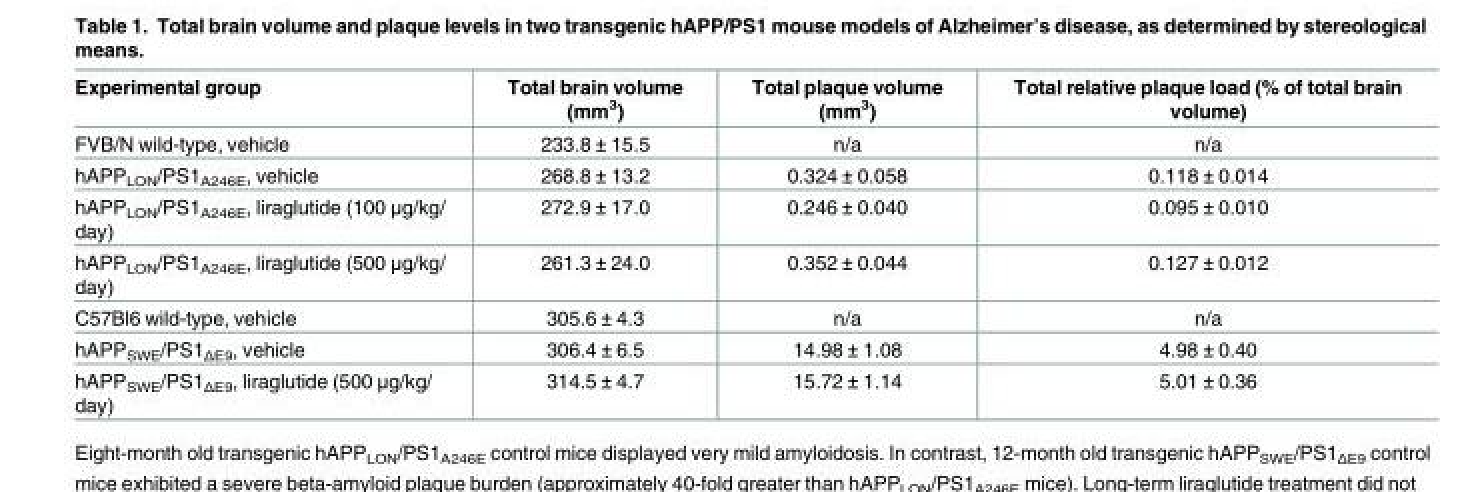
<table><thead><tr><td>Experimental group</td><td>Total brain volume (mm<sup>3</sup>)</td><td>Total plaque volume (mm<sup>3</sup>)</td><td>Total relative plaque load (% of total brain volume)</td></tr></thead><tbody><tr><td>FVB/N wild-type, vehicle</td><td>233.8 ± 15.5</td><td>n/a</td><td>n/a</td></tr><tr><td>hAPP<sub>LON</sub>/PS1<sub>A246E</sub>, vehicle</td><td>268.8 ± 13.2</td><td>0.324 ± 0.058</td><td>0.118 ± 0.014</td></tr><tr><td>hAPP<sub>LON</sub>/PS1<sub>A246E</sub>, liraglutide (100 μg/kg/ day)</td><td>272.9 ± 17.0</td><td>0.246 ± 0.040</td><td>0.095 ± 0.010</td></tr><tr><td>hAPP<sub>LON</sub>/PS1<sub>A246E</sub>, liraglutide (500 μg/kg/ day)</td><td>261.3 ± 24.0</td><td>0.352 ± 0.044</td><td>0.127 ± 0.012</td></tr><tr><td>C57Bl6 wild-type, vehicle</td><td>305.6 ± 4.3</td><td>n/a</td><td>n/a</td></tr><tr><td>hAPP<sub>SWE</sub>/PS1<sub>ΔE9</sub>, vehicle</td><td>306.4 ± 6.5</td><td>14.98 ± 1.08</td><td>4.98 ± 0.40</td></tr><tr><td>hAPP<sub>SWE</sub>/PS1<sub>ΔE9</sub>, liraglutide (500 μg/kg/ day)</td><td>314.5 ± 4.7</td><td>15.72 ± 1.14</td><td>5.01 ± 0.36</td></tr></tbody></table>